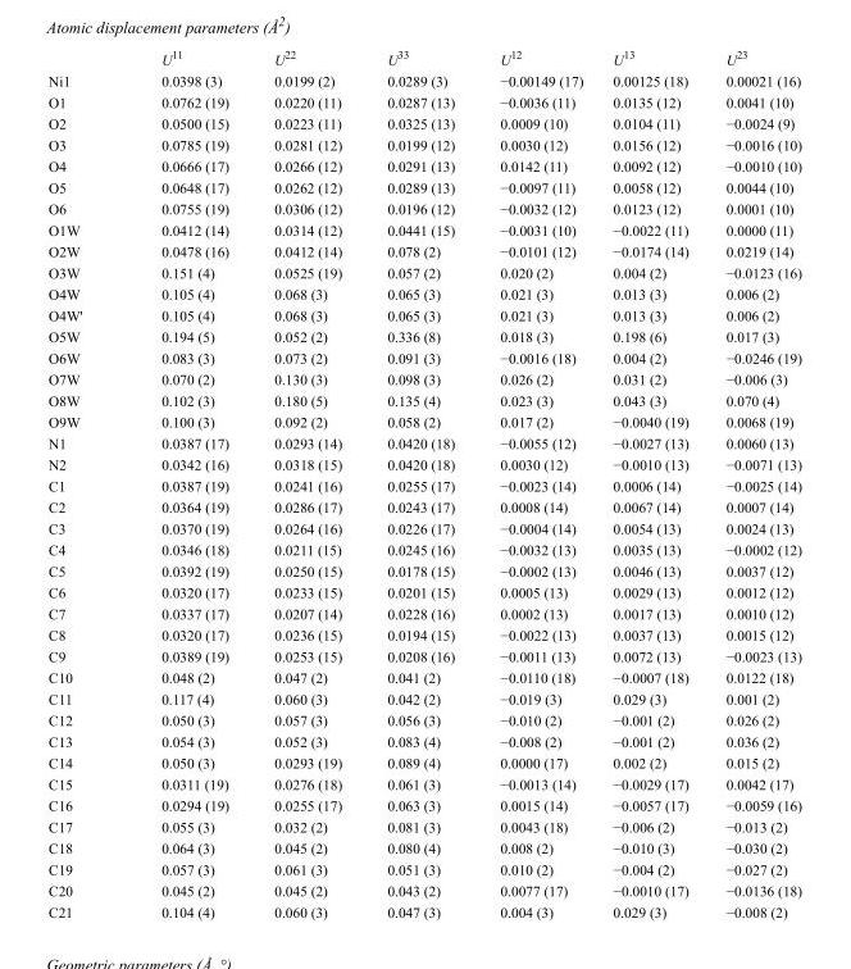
<table><thead><tr><td></td><td>U<sup>11</sup></td><td>U<sup>22</sup></td><td>U<sup>33</sup></td><td>U<sup>12</sup></td><td>U<sup>13</sup></td><td>U<sup>23</sup></td></tr></thead><tbody><tr><td>Ni1</td><td>0.0398 (3)</td><td>0.0199 (2)</td><td>0.0289 (3)</td><td>−0.00149 (17)</td><td>0.00125 (18)</td><td>0.00021 (16)</td></tr><tr><td>O1</td><td>0.0762 (19)</td><td>0.0220 (11)</td><td>0.0287 (13)</td><td>−0.0036 (11)</td><td>0.0135 (12)</td><td>0.0041 (10)</td></tr><tr><td>O2</td><td>0.0500 (15)</td><td>0.0223 (11)</td><td>0.0325 (13)</td><td>0.0009 (10)</td><td>0.0104 (11)</td><td>−0.0024 (9)</td></tr><tr><td>O3</td><td>0.0785 (19)</td><td>0.0281 (12)</td><td>0.0199 (12)</td><td>0.0030 (12)</td><td>0.0156 (12)</td><td>−0.0016 (10)</td></tr><tr><td>O4</td><td>0.0666 (17)</td><td>0.0266 (12)</td><td>0.0291 (13)</td><td>0.0142 (11)</td><td>0.0092 (12)</td><td>−0.0010 (10)</td></tr><tr><td>O5</td><td>0.0648 (17)</td><td>0.0262 (12)</td><td>0.0289 (13)</td><td>−0.0097 (11)</td><td>0.0058 (12)</td><td>0.0044 (10)</td></tr><tr><td>O6</td><td>0.0755 (19)</td><td>0.0306 (12)</td><td>0.0196 (12)</td><td>−0.0032 (12)</td><td>0.0123 (12)</td><td>0.0001 (10)</td></tr><tr><td>O1W</td><td>0.0412 (14)</td><td>0.0314 (12)</td><td>0.0441 (15)</td><td>−0.0031 (10)</td><td>−0.0022 (11)</td><td>0.0000 (11)</td></tr><tr><td>O2W</td><td>0.0478 (16)</td><td>0.0412 (14)</td><td>0.078 (2)</td><td>−0.0101 (12)</td><td>−0.0174 (14)</td><td>0.0219 (14)</td></tr><tr><td>O3W</td><td>0.151 (4)</td><td>0.0525 (19)</td><td>0.057 (2)</td><td>0.020 (2)</td><td>0.004 (2)</td><td>−0.0123 (16)</td></tr><tr><td>O4W</td><td>0.105 (4)</td><td>0.068 (3)</td><td>0.065 (3)</td><td>0.021 (3)</td><td>0.013 (3)</td><td>0.006 (2)</td></tr><tr><td>O4W&#x27;</td><td>0.105 (4)</td><td>0.068 (3)</td><td>0.065 (3)</td><td>0.021 (3)</td><td>0.013 (3)</td><td>0.006 (2)</td></tr><tr><td>O5W</td><td>0.194 (5)</td><td>0.052 (2)</td><td>0.336 (8)</td><td>0.018 (3)</td><td>0.198 (6)</td><td>0.017 (3)</td></tr><tr><td>O6W</td><td>0.083 (3)</td><td>0.073 (2)</td><td>0.091 (3)</td><td>−0.0016 (18)</td><td>0.004 (2)</td><td>−0.0246 (19)</td></tr><tr><td>O7W</td><td>0.070 (2)</td><td>0.130 (3)</td><td>0.098 (3)</td><td>0.026 (2)</td><td>0.031 (2)</td><td>−0.006 (3)</td></tr><tr><td>O8W</td><td>0.102 (3)</td><td>0.180 (5)</td><td>0.135 (4)</td><td>0.023 (3)</td><td>0.043 (3)</td><td>0.070 (4)</td></tr><tr><td>O9W</td><td>0.100 (3)</td><td>0.092 (2)</td><td>0.058 (2)</td><td>0.017 (2)</td><td>−0.0040 (19)</td><td>0.0068 (19)</td></tr><tr><td>N1</td><td>0.0387 (17)</td><td>0.0293 (14)</td><td>0.0420 (18)</td><td>−0.0055 (12)</td><td>−0.0027 (13)</td><td>0.0060 (13)</td></tr><tr><td>N2</td><td>0.0342 (16)</td><td>0.0318 (15)</td><td>0.0420 (18)</td><td>0.0030 (12)</td><td>−0.0010 (13)</td><td>−0.0071 (13)</td></tr><tr><td>C1</td><td>0.0387 (19)</td><td>0.0241 (16)</td><td>0.0255 (17)</td><td>−0.0023 (14)</td><td>0.0006 (14)</td><td>−0.0025 (14)</td></tr><tr><td>C2</td><td>0.0364 (19)</td><td>0.0286 (17)</td><td>0.0243 (17)</td><td>0.0008 (14)</td><td>0.0067 (14)</td><td>0.0007 (14)</td></tr><tr><td>C3</td><td>0.0370 (19)</td><td>0.0264 (16)</td><td>0.0226 (17)</td><td>−0.0004 (14)</td><td>0.0054 (13)</td><td>0.0024 (13)</td></tr><tr><td>C4</td><td>0.0346 (18)</td><td>0.0211 (15)</td><td>0.0245 (16)</td><td>−0.0032 (13)</td><td>0.0035 (13)</td><td>−0.0002 (12)</td></tr><tr><td>C5</td><td>0.0392 (19)</td><td>0.0250 (15)</td><td>0.0178 (15)</td><td>−0.0002 (13)</td><td>0.0046 (13)</td><td>0.0037 (12)</td></tr><tr><td>C6</td><td>0.0320 (17)</td><td>0.0233 (15)</td><td>0.0201 (15)</td><td>0.0005 (13)</td><td>0.0029 (13)</td><td>0.0012 (12)</td></tr><tr><td>C7</td><td>0.0337 (17)</td><td>0.0207 (14)</td><td>0.0228 (16)</td><td>0.0002 (13)</td><td>0.0017 (13)</td><td>0.0010 (12)</td></tr><tr><td>C8</td><td>0.0320 (17)</td><td>0.0236 (15)</td><td>0.0194 (15)</td><td>−0.0022 (13)</td><td>0.0037 (13)</td><td>0.0015 (12)</td></tr><tr><td>C9</td><td>0.0389 (19)</td><td>0.0253 (15)</td><td>0.0208 (16)</td><td>−0.0011 (13)</td><td>0.0072 (13)</td><td>−0.0023 (13)</td></tr><tr><td>C10</td><td>0.048 (2)</td><td>0.047 (2)</td><td>0.041 (2)</td><td>−0.0110 (18)</td><td>−0.0007 (18)</td><td>0.0122 (18)</td></tr><tr><td>C11</td><td>0.117 (4)</td><td>0.060 (3)</td><td>0.042 (2)</td><td>−0.019 (3)</td><td>0.029 (3)</td><td>0.001 (2)</td></tr><tr><td>C12</td><td>0.050 (3)</td><td>0.057 (3)</td><td>0.056 (3)</td><td>−0.010 (2)</td><td>−0.001 (2)</td><td>0.026 (2)</td></tr><tr><td>C13</td><td>0.054 (3)</td><td>0.052 (3)</td><td>0.083 (4)</td><td>−0.008 (2)</td><td>−0.001 (2)</td><td>0.036 (2)</td></tr><tr><td>C14</td><td>0.050 (3)</td><td>0.0293 (19)</td><td>0.089 (4)</td><td>0.0000 (17)</td><td>0.002 (2)</td><td>0.015 (2)</td></tr><tr><td>C15</td><td>0.0311 (19)</td><td>0.0276 (18)</td><td>0.061 (3)</td><td>−0.0013 (14)</td><td>−0.0029 (17)</td><td>0.0042 (17)</td></tr><tr><td>C16</td><td>0.0294 (19)</td><td>0.0255 (17)</td><td>0.063 (3)</td><td>0.0015 (14)</td><td>−0.0057 (17)</td><td>−0.0059 (16)</td></tr><tr><td>C17</td><td>0.055 (3)</td><td>0.032 (2)</td><td>0.081 (3)</td><td>0.0043 (18)</td><td>−0.006 (2)</td><td>−0.013 (2)</td></tr><tr><td>C18</td><td>0.064 (3)</td><td>0.045 (2)</td><td>0.080 (4)</td><td>0.008 (2)</td><td>−0.010 (3)</td><td>−0.030 (2)</td></tr><tr><td>C19</td><td>0.057 (3)</td><td>0.061 (3)</td><td>0.051 (3)</td><td>0.010 (2)</td><td>−0.004 (2)</td><td>−0.027 (2)</td></tr><tr><td>C20</td><td>0.045 (2)</td><td>0.045 (2)</td><td>0.043 (2)</td><td>0.0077 (17)</td><td>−0.0010 (17)</td><td>−0.0136 (18)</td></tr><tr><td>C21</td><td>0.104 (4)</td><td>0.060 (3)</td><td>0.047 (3)</td><td>0.004 (3)</td><td>0.029 (3)</td><td>−0.008 (2)</td></tr></tbody></table>